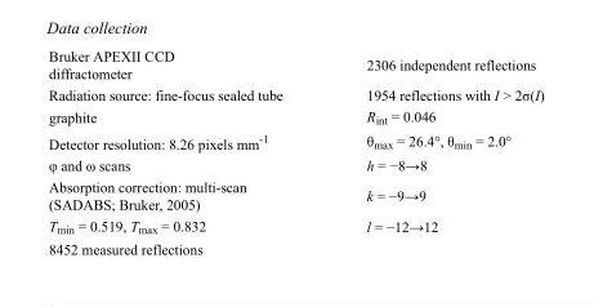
<table><tbody><tr><td>Bruker APEXII CCD diffractometer</td><td>2306 independent reflections</td></tr><tr><td>Radiation source: fine-focus sealed tube</td><td>1954 reflections with I &gt; 2σ(I)</td></tr><tr><td>graphite</td><td>R<sub>int</sub> = 0.046</td></tr><tr><td>Detector resolution: 8.26 pixels mm<sup>-1</sup></td><td>θ<sub>max</sub> = 26.4°, θ<sub>min</sub> = 2.0°</td></tr><tr><td>φ and ω scans</td><td>h = −8→8</td></tr><tr><td>Absorption correction: multi-scan (SADABS; Bruker, 2005)</td><td>k = −9→9</td></tr><tr><td>T<sub>min</sub> = 0.519, T<sub>max</sub> = 0.832</td><td>l = −12→12</td></tr><tr><td>8452 measured reflections</td><td></td></tr></tbody></table>